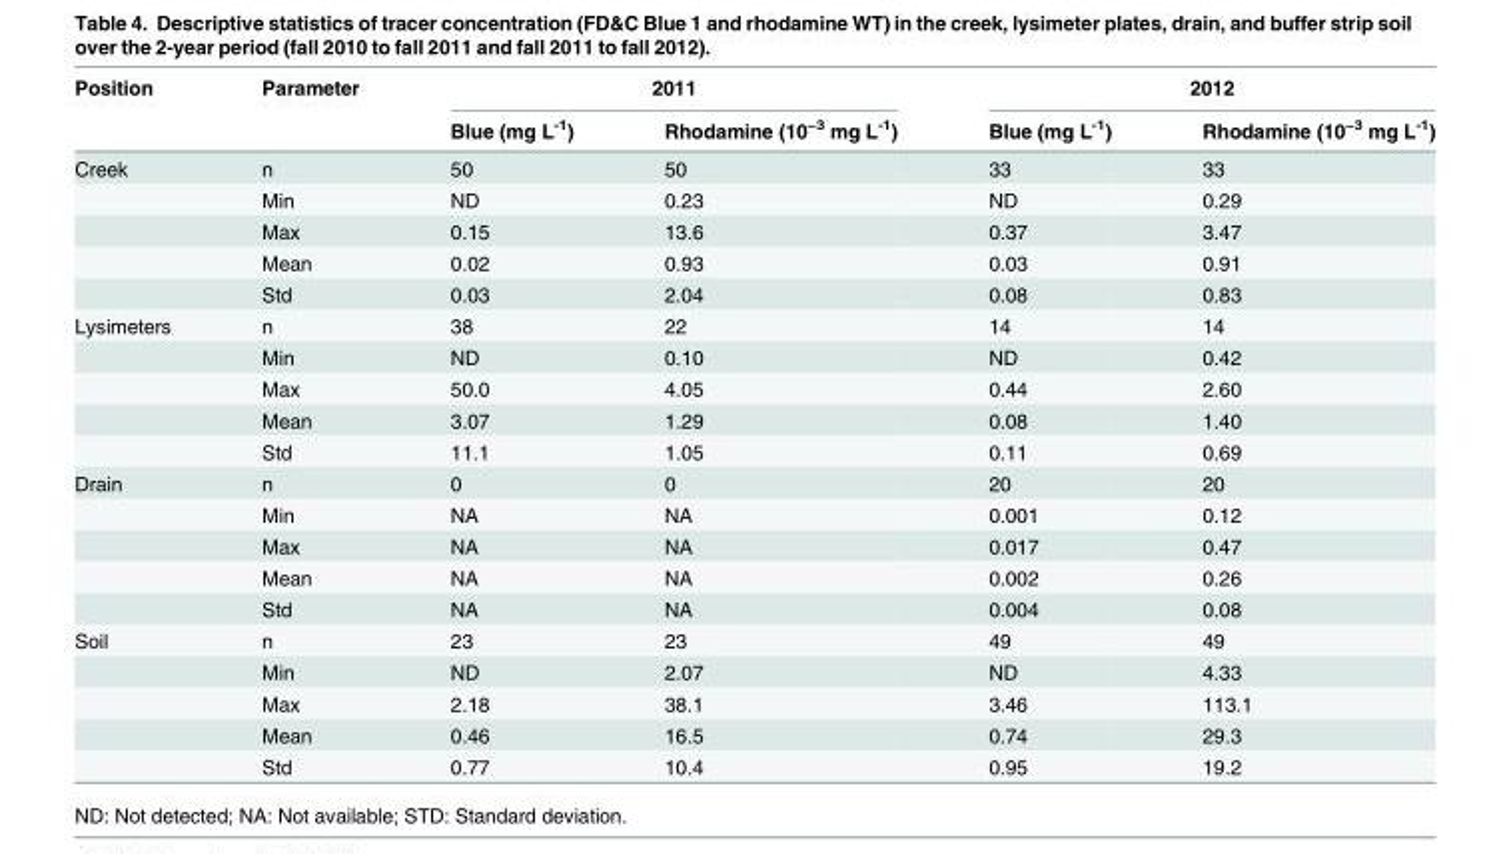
<table><thead><tr><td rowspan="2">Position</td><td rowspan="2">Parameter</td><td colspan="2">2011</td><td colspan="2">2012</td></tr><tr><td>Blue (mg L<sup>-1</sup>)</td><td>Rhodamine (10<sup>−3</sup> mg L<sup>-1</sup>)</td><td>Blue (mg L<sup>-1</sup>)</td><td>Rhodamine (10<sup>−3</sup> mg L<sup>-1</sup>)</td></tr></thead><tbody><tr><td rowspan="5">Creek</td><td>n</td><td>50</td><td>50</td><td>33</td><td>33</td></tr><tr><td>Min</td><td>ND</td><td>0.23</td><td>ND</td><td>0.29</td></tr><tr><td>Max</td><td>0.15</td><td>13.6</td><td>0.37</td><td>3.47</td></tr><tr><td>Mean</td><td>0.02</td><td>0.93</td><td>0.03</td><td>0.91</td></tr><tr><td>Std</td><td>0.03</td><td>2.04</td><td>0.08</td><td>0.83</td></tr><tr><td rowspan="5">Lysimeters</td><td>n</td><td>38</td><td>22</td><td>14</td><td>14</td></tr><tr><td>Min</td><td>ND</td><td>0.10</td><td>ND</td><td>0.42</td></tr><tr><td>Max</td><td>50.0</td><td>4.05</td><td>0.44</td><td>2.60</td></tr><tr><td>Mean</td><td>3.07</td><td>1.29</td><td>0.08</td><td>1.40</td></tr><tr><td>Std</td><td>11.1</td><td>1.05</td><td>0.11</td><td>0.69</td></tr><tr><td rowspan="5">Drain</td><td>n</td><td>0</td><td>0</td><td>20</td><td>20</td></tr><tr><td>Min</td><td>NA</td><td>NA</td><td>0.001</td><td>0.12</td></tr><tr><td>Max</td><td>NA</td><td>NA</td><td>0.017</td><td>0.47</td></tr><tr><td>Mean</td><td>NA</td><td>NA</td><td>0.002</td><td>0.26</td></tr><tr><td>Std</td><td>NA</td><td>NA</td><td>0.004</td><td>0.08</td></tr><tr><td rowspan="5">Soil</td><td>n</td><td>23</td><td>23</td><td>49</td><td>49</td></tr><tr><td>Min</td><td>ND</td><td>2.07</td><td>ND</td><td>4.33</td></tr><tr><td>Max</td><td>2.18</td><td>38.1</td><td>3.46</td><td>113.1</td></tr><tr><td>Mean</td><td>0.46</td><td>16.5</td><td>0.74</td><td>29.3</td></tr><tr><td>Std</td><td>0.77</td><td>10.4</td><td>0.95</td><td>19.2</td></tr></tbody></table>